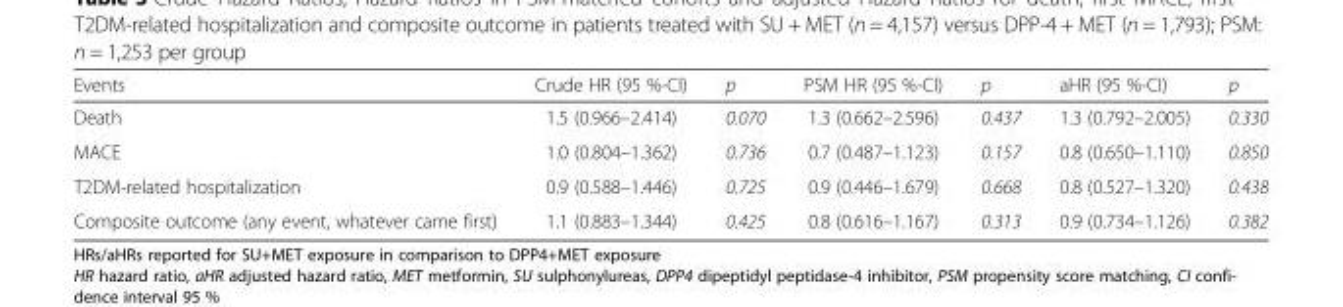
<table><thead><tr><td>Events</td><td>Crude HR (95 %-CI)</td><td>p</td><td>PSM HR (95 %-CI)</td><td>p</td><td>aHR (95 %-CI)</td><td>p</td></tr></thead><tbody><tr><td>Death</td><td>1.5 (0.966–2.414)</td><td>0.070</td><td>1.3 (0.662–2.596)</td><td>0.437</td><td>1.3 (0.792–2.005)</td><td>0.330</td></tr><tr><td>MACE</td><td>1.0 (0.804–1.362)</td><td>0.736</td><td>0.7 (0.487–1.123)</td><td>0.157</td><td>0.8 (0.650–1.110)</td><td>0.850</td></tr><tr><td>T2DM-related hospitalization</td><td>0.9 (0.588–1.446)</td><td>0.725</td><td>0.9 (0.446–1.679)</td><td>0.668</td><td>0.8 (0.527–1.320)</td><td>0.438</td></tr><tr><td>Composite outcome (any event, whatever came first)</td><td>1.1 (0.883–1.344)</td><td>0.425</td><td>0.8 (0.616–1.167)</td><td>0.313</td><td>0.9 (0.734–1.126)</td><td>0.382</td></tr></tbody></table>